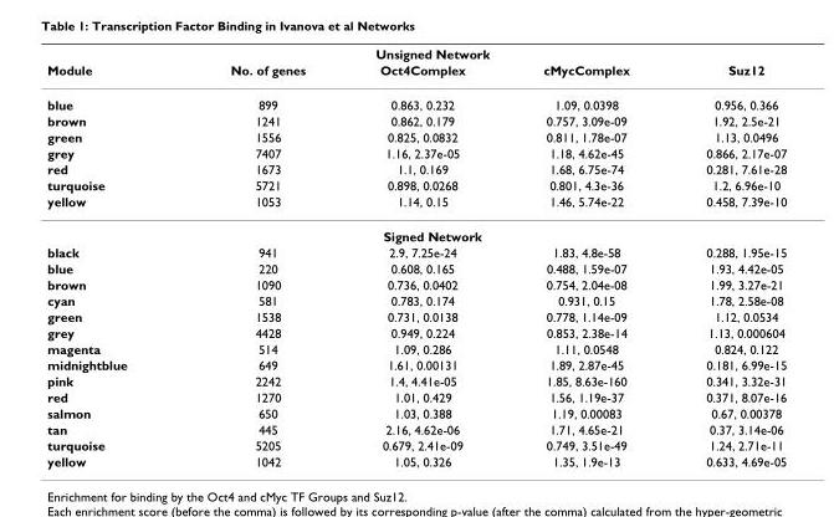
<table><thead><tr><td colspan="5">Unsigned Network</td></tr><tr><td>Module</td><td>No. of genes</td><td>Oct4Complex</td><td>cMycComplex</td><td>Suz12</td></tr></thead><tbody><tr><td>blue</td><td>899</td><td>0.863, 0.232</td><td>1.09, 0.0398</td><td>0.956, 0.366</td></tr><tr><td>brown</td><td>1241</td><td>0.862, 0.179</td><td>0.757, 3.09e-09</td><td>1.92, 2.5e-21</td></tr><tr><td>green</td><td>1556</td><td>0.825, 0.0832</td><td>0.811, 1.78e-07</td><td>1.13, 0.0496</td></tr><tr><td>grey</td><td>7407</td><td>1.16, 2.37e-05</td><td>1.18, 4.62e-45</td><td>0.866, 2.17e-07</td></tr><tr><td>red</td><td>1673</td><td>1.1, 0.169</td><td>1.68, 6.75e-74</td><td>0.281, 7.61e-28</td></tr><tr><td>turquoise</td><td>5721</td><td>0.898, 0.0268</td><td>0.801, 4.3e-36</td><td>1.2, 6.96e-10</td></tr><tr><td>yellow</td><td>1053</td><td>1.14, 0.15</td><td>1.46, 5.74e-22</td><td>0.458, 7.39e-10</td></tr><tr><td colspan="5">Signed Network</td></tr><tr><td>black</td><td>941</td><td>2.9, 7.25e-24</td><td>1.83, 4.8e-58</td><td>0.288, 1.95e-15</td></tr><tr><td>blue</td><td>220</td><td>0.608, 0.165</td><td>0.488, 1.59e-07</td><td>1.93, 4.42e-05</td></tr><tr><td>brown</td><td>1090</td><td>0.736, 0.0402</td><td>0.754, 2.04e-08</td><td>1.99, 3.27e-21</td></tr><tr><td>cyan</td><td>581</td><td>0.783, 0.174</td><td>0.931, 0.15</td><td>1.78, 2.58e-08</td></tr><tr><td>green</td><td>1538</td><td>0.731, 0.0138</td><td>0.778, 1.14e-09</td><td>1.12, 0.0534</td></tr><tr><td>grey</td><td>4428</td><td>0.949, 0.224</td><td>0.853, 2.38e-14</td><td>1.13, 0.000604</td></tr><tr><td>magenta</td><td>514</td><td>1.09, 0.286</td><td>1.11, 0.0548</td><td>0.824, 0.122</td></tr><tr><td>midnightblue</td><td>649</td><td>1.61, 0.00131</td><td>1.89, 2.87e-45</td><td>0.181, 6.99e-15</td></tr><tr><td>pink</td><td>2242</td><td>1.4, 4.41e-05</td><td>1.85, 8.63e-160</td><td>0.341, 3.32e-31</td></tr><tr><td>red</td><td>1270</td><td>1.01, 0.429</td><td>1.56, 1.19e-37</td><td>0.371, 8.07e-16</td></tr><tr><td>salmon</td><td>650</td><td>1.03, 0.388</td><td>1.19, 0.00083</td><td>0.67, 0.00378</td></tr><tr><td>tan</td><td>445</td><td>2.16, 4.62e-06</td><td>1.71, 4.65e-21</td><td>0.37, 3.14e-06</td></tr><tr><td>turquoise</td><td>5205</td><td>0.679, 2.41e-09</td><td>0.749, 3.51e-49</td><td>1.24, 2.71e-11</td></tr><tr><td>yellow</td><td>1042</td><td>1.05, 0.326</td><td>1.35, 1.9e-13</td><td>0.633, 4.69e-05</td></tr></tbody></table>